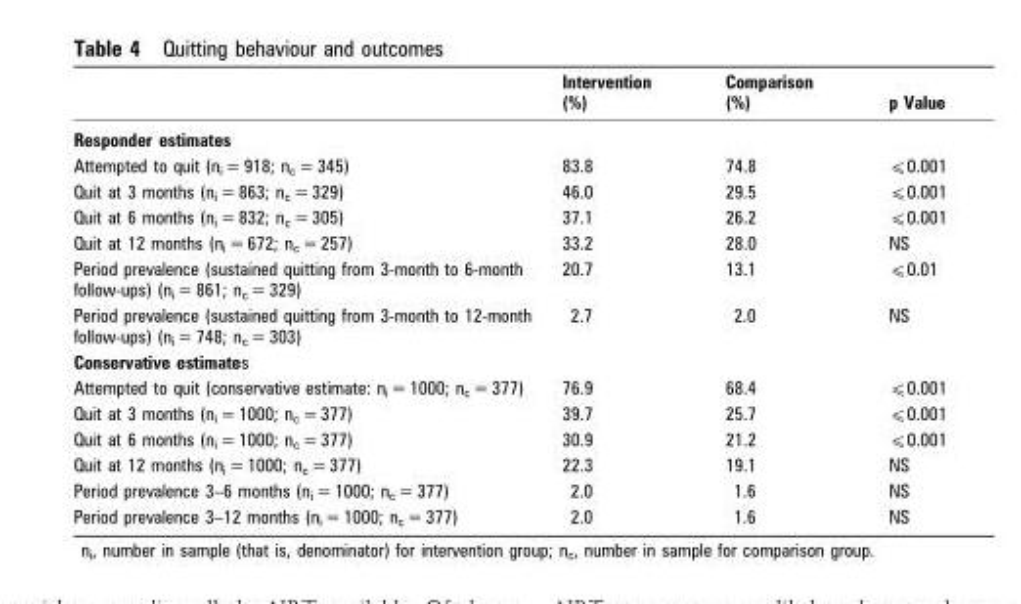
<table><thead><tr><td></td><td>Intervention (%)</td><td>Comparison (%)</td><td>p Value</td></tr></thead><tbody><tr><td colspan="4">Responder estimates</td></tr><tr><td>Attempted to quit (n<sub>i</sub> = 918; n<sub>c</sub> = 345)</td><td>83.8</td><td>74.8</td><td>⩽0.001</td></tr><tr><td>Quit at 3 months (n<sub>i</sub> = 863; n<sub>c</sub> = 329)</td><td>46.0</td><td>29.5</td><td>⩽0.001</td></tr><tr><td>Quit at 6 months (n<sub>i</sub> = 832; n<sub>c</sub> = 305)</td><td>37.1</td><td>26.2</td><td>⩽0.001</td></tr><tr><td>Quit at 12 months (n<sub>i</sub> = 672; n<sub>c</sub> = 257)</td><td>33.2</td><td>28.0</td><td>NS</td></tr><tr><td>Period prevalence (sustained quitting from 3-month to 6-month follow-ups) (n<sub>i</sub> = 861; n<sub>c</sub> = 329)</td><td>20.7</td><td>13.1</td><td>⩽0.01</td></tr><tr><td>Period prevalence (sustained quitting from 3-month to 12-month follow-ups) (n<sub>i</sub> = 748; n<sub>c</sub> = 303)</td><td>2.7</td><td>2.0</td><td>NS</td></tr><tr><td colspan="4">Conservative estimates</td></tr><tr><td>Attempted to quit (conservative estimate: n<sub>i</sub> = 1000; n<sub>c</sub> = 377)</td><td>76.9</td><td>68.4</td><td>⩽0.001</td></tr><tr><td>Quit at 3 months (n<sub>i</sub> = 1000; n<sub>c</sub> = 377)</td><td>39.7</td><td>25.7</td><td>⩽0.001</td></tr><tr><td>Quit at 6 months (n<sub>i</sub> = 1000; n<sub>c</sub> = 377)</td><td>30.9</td><td>21.2</td><td>⩽0.001</td></tr><tr><td>Quit at 12 months (n<sub>i</sub> = 1000; n<sub>c</sub> = 377)</td><td>22.3</td><td>19.1</td><td>NS</td></tr><tr><td>Period prevalence 3–6 months (n<sub>i</sub> = 1000; n<sub>c</sub> = 377)</td><td>2.0</td><td>1.6</td><td>NS</td></tr><tr><td>Period prevalence 3–12 months (n<sub>i</sub> = 1000; n<sub>c</sub> = 377)</td><td>2.0</td><td>1.6</td><td>NS</td></tr></tbody></table>